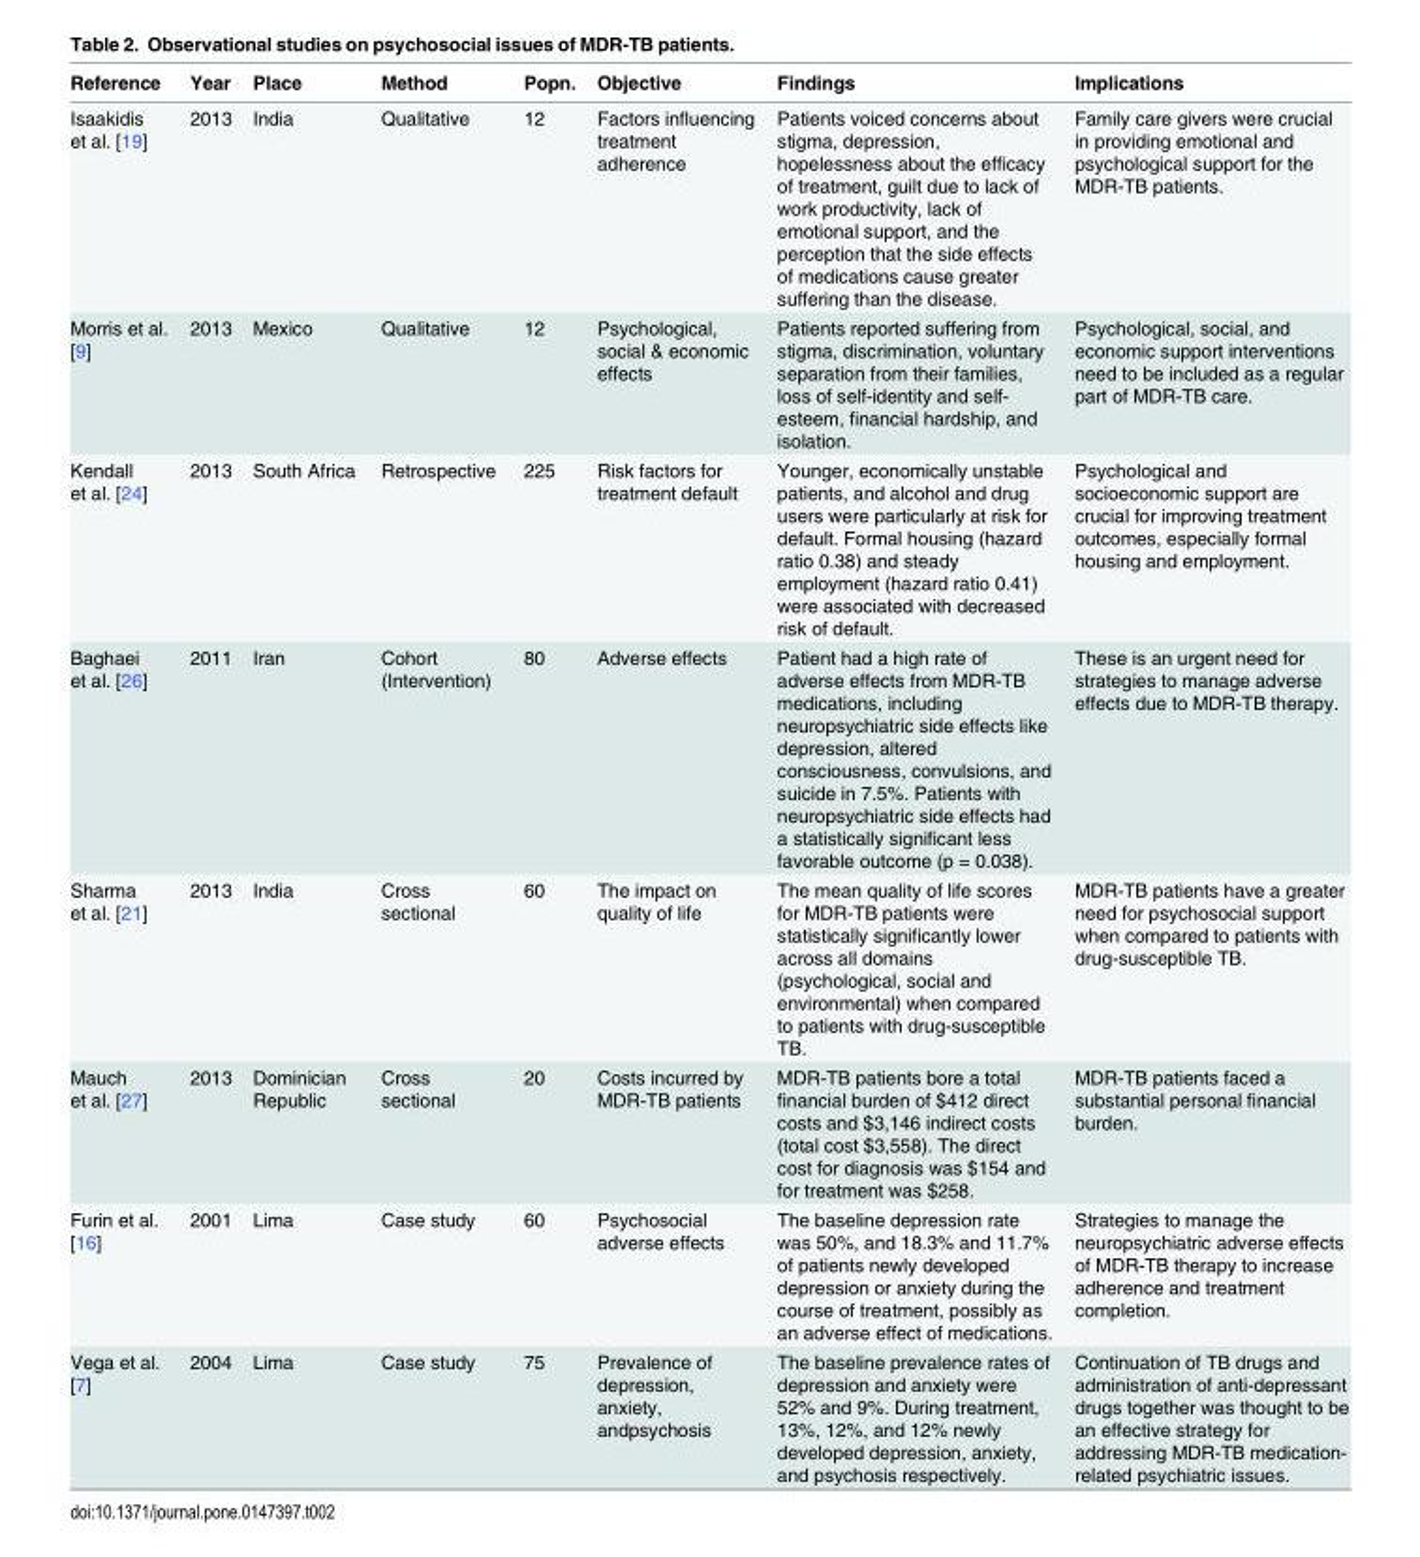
<table><thead><tr><td>Reference</td><td>Year</td><td>Place</td><td>Method</td><td>Popn.</td><td>Objective</td><td>Findings</td><td>Implications</td></tr></thead><tbody><tr><td>Isaakidis et al. [19]</td><td>2013</td><td>India</td><td>Qualitative</td><td>12</td><td>Factors influencing treatment adherence</td><td>Patients voiced concerns about stigma, depression, hopelessness about the efficacy of treatment, guilt due to lack of work productivity, lack of emotional support, and the perception that the side effects of medications cause greater suffering than the disease.</td><td>Family care givers were crucial in providing emotional and psychological support for the MDR-TB patients.</td></tr><tr><td>Morris et al. [9]</td><td>2013</td><td>Mexico</td><td>Qualitative</td><td>12</td><td>Psychological, social &amp; economic effects</td><td>Patients reported suffering from stigma, discrimination, voluntary separation from their families, loss of self-identity and self- esteem, financial hardship, and isolation.</td><td>Psychological, social, and economic support interventions need to be included as a regular part of MDR-TB care.</td></tr><tr><td>Kendall et al. [24]</td><td>2013</td><td>South Africa</td><td>Retrospective</td><td>225</td><td>Risk factors for treatment default</td><td>Younger, economically unstable patients, and alcohol and drug users were particularly at risk for default. Formal housing (hazard ratio 0.38) and steady employment (hazard ratio 0.41) were associated with decreased risk of default.</td><td>Psychological and socioeconomic support are crucial for improving treatment outcomes, especially formal housing and employment.</td></tr><tr><td>Baghaei et al. [26]</td><td>2011</td><td>Iran</td><td>Cohort (Intervention)</td><td>80</td><td>Adverse effects</td><td>Patient had a high rate of adverse effects from MDR-TB medications, including neuropsychiatric side effects like depression, altered consciousness, convulsions, and suicide in 7.5%. Patients with neuropsychiatric side effects had a statistically significant less favorable outcome (p = 0.038).</td><td>These is an urgent need for strategies to manage adverse effects due to MDR-TB therapy.</td></tr><tr><td>Sharma et al. [21]</td><td>2013</td><td>India</td><td>Cross sectional</td><td>60</td><td>The impact on quality of life</td><td>The mean quality of life scores for MDR-TB patients were statistically significantly lower across all domains (psychological, social and environmental) when compared to patients with drug-susceptible TB.</td><td>MDR-TB patients have a greater need for psychosocial support when compared to patients with drug-susceptible TB.</td></tr><tr><td>Mauch et al. [27]</td><td>2013</td><td>Dominician Republic</td><td>Cross sectional</td><td>20</td><td>Costs incurred by MDR-TB patients</td><td>MDR-TB patients bore a total financial burden of $412 direct costs and $3,146 indirect costs (total cost $3,558). The direct cost for diagnosis was $154 and for treatment was $258.</td><td>MDR-TB patients faced a substantial personal financial burden.</td></tr><tr><td>Furin et al. [16]</td><td>2001</td><td>Lima</td><td>Case study</td><td>60</td><td>Psychosocial adverse effects</td><td>The baseline depression rate was 50%, and 18.3% and 11.7% of patients newly developed depression or anxiety during the course of treatment, possibly as an adverse effect of medications.</td><td>Strategies to manage the neuropsychiatric adverse effects of MDR-TB therapy to increase adherence and treatment completion.</td></tr><tr><td>Vega et al. [7]</td><td>2004</td><td>Lima</td><td>Case study</td><td>75</td><td>Prevalence of depression, anxiety, andpsychosis</td><td>The baseline prevalence rates of depression and anxiety were 52% and 9%. During treatment, 13%, 12%, and 12% newly developed depression, anxiety, and psychosis respectively.</td><td>Continuation of TB drugs and administration of anti-depressant drugs together was thought to be an effective strategy for addressing MDR-TB medication- related psychiatric issues.</td></tr></tbody></table>